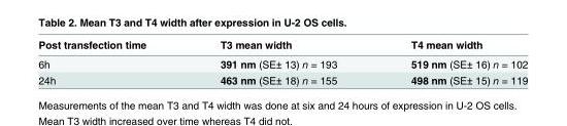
<table><thead><tr><td>Post transfection time</td><td>T3 mean width</td><td>T4 mean width</td></tr></thead><tbody><tr><td>6h</td><td>391 nm (SE± 13) n = 193</td><td>519 nm (SE± 16) n = 102</td></tr><tr><td>24h</td><td>463 nm (SE± 18) n = 155</td><td>498 nm (SE± 15) n = 119</td></tr></tbody></table>